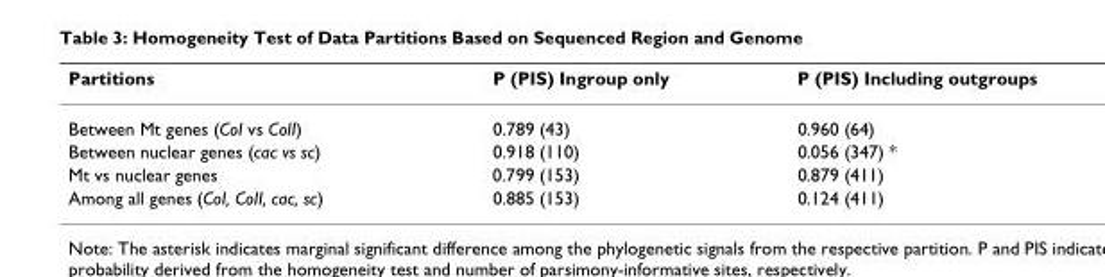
<table><thead><tr><td>Partitions</td><td>P (PIS) Ingroup only</td><td>P (PIS) Including outgroups</td></tr></thead><tbody><tr><td>Between Mt genes (CoI vs CoII)</td><td>0.789 (43)</td><td>0.960 (64)</td></tr><tr><td>Between nuclear genes (cac vs sc)</td><td>0.918 (110)</td><td>0.056 (347) *</td></tr><tr><td>Mt vs nuclear genes</td><td>0.799 (153)</td><td>0.879 (411)</td></tr><tr><td>Among all genes (CoI, CoII, cac, sc)</td><td>0.885 (153)</td><td>0.124 (411)</td></tr></tbody></table>